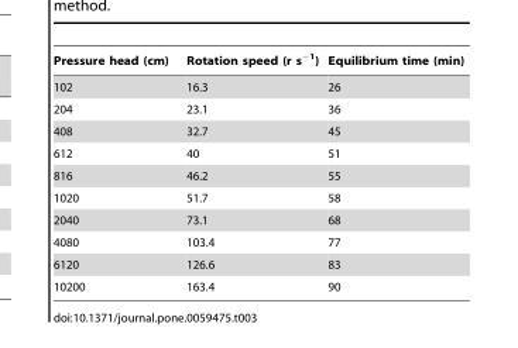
<table><thead><tr><td>Pressure head (cm)</td><td>Rotation speed (r s<sup>−1</sup>)</td><td>Equilibrium time (min)</td></tr></thead><tbody><tr><td>102</td><td>16.3</td><td>26</td></tr><tr><td>204</td><td>23.1</td><td>36</td></tr><tr><td>408</td><td>32.7</td><td>45</td></tr><tr><td>612</td><td>40</td><td>51</td></tr><tr><td>816</td><td>46.2</td><td>55</td></tr><tr><td>1020</td><td>51.7</td><td>58</td></tr><tr><td>2040</td><td>73.1</td><td>68</td></tr><tr><td>4080</td><td>103.4</td><td>77</td></tr><tr><td>6120</td><td>126.6</td><td>83</td></tr><tr><td>10200</td><td>163.4</td><td>90</td></tr></tbody></table>